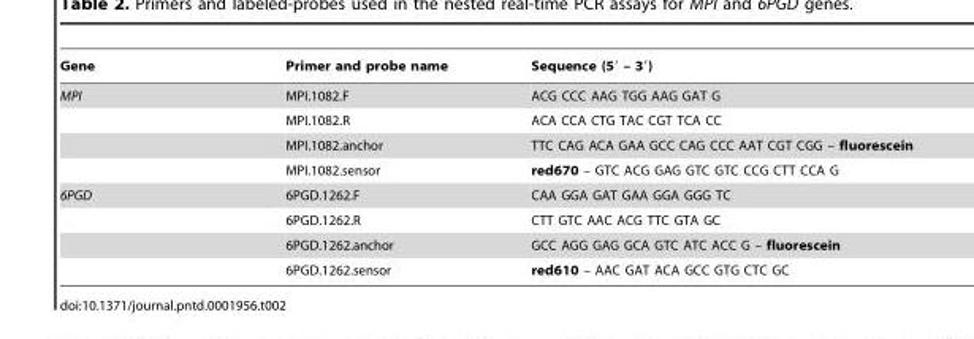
<table><thead><tr><td>Gene</td><td>Primer and probe name</td><td>Sequence (5′ – 3′)</td></tr></thead><tbody><tr><td rowspan="4">MPI</td><td>MPI.1082.F</td><td>ACG CCC AAG TGG AAG GAT G</td></tr><tr><td>MPI.1082.R</td><td>ACA CCA CTG TAC CGT TCA CC</td></tr><tr><td>MPI.1082.anchor</td><td>TTC CAG ACA GAA GCC CAG CCC AAT CGT CGG – fluorescein</td></tr><tr><td>MPI.1082.sensor</td><td>red670 – GTC ACG GAG GTC GTC CCG CTT CCA G</td></tr><tr><td rowspan="4">6PGD</td><td>6PGD.1262.F</td><td>CAA GGA GAT GAA GGA GGG TC</td></tr><tr><td>6PGD.1262.R</td><td>CTT GTC AAC ACG TTC GTA GC</td></tr><tr><td>6PGD.1262.anchor</td><td>GCC AGG GAG GCA GTC ATC ACC G – fluorescein</td></tr><tr><td>6PGD.1262.sensor</td><td>red610 – AAC GAT ACA GCC GTG CTC GC</td></tr></tbody></table>